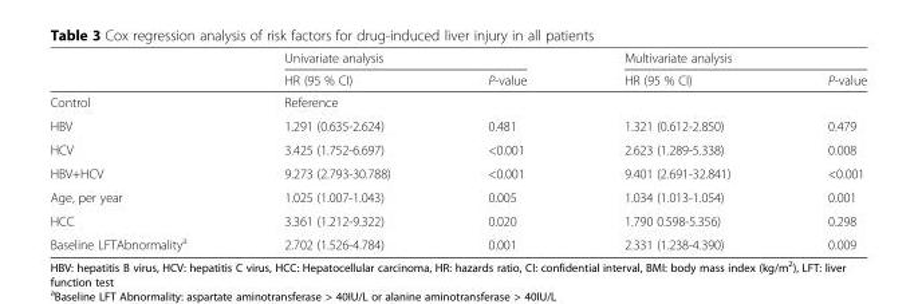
<table><thead><tr><td rowspan="2"></td><td colspan="2">Univariate analysis</td><td colspan="2">Multivariate analysis</td></tr><tr><td>HR (95 % CI)</td><td>P-value</td><td>HR (95 % CI)</td><td>P-value</td></tr></thead><tbody><tr><td>Control</td><td colspan="4">Reference</td></tr><tr><td>HBV</td><td>1.291 (0.635-2.624)</td><td>0.481</td><td>1.321 (0.612-2.850)</td><td>0.479</td></tr><tr><td>HCV</td><td>3.425 (1.752-6.697)</td><td>&lt;0.001</td><td>2.623 (1.289-5.338)</td><td>0.008</td></tr><tr><td>HBV+HCV</td><td>9.273 (2.793-30.788)</td><td>&lt;0.001</td><td>9.401 (2.691-32.841)</td><td>&lt;0.001</td></tr><tr><td>Age, per year</td><td>1.025 (1.007-1.043)</td><td>0.005</td><td>1.034 (1.013-1.054)</td><td>0.001</td></tr><tr><td>HCC</td><td>3.361 (1.212-9.322)</td><td>0.020</td><td>1.790 0.598-5.356)</td><td>0.298</td></tr><tr><td>Baseline LFTAbnormality<sup>a</sup></td><td>2.702 (1.526-4.784)</td><td>0.001</td><td>2.331 (1.238-4.390)</td><td>0.009</td></tr></tbody></table>